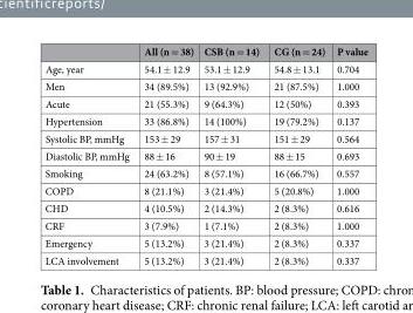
<table><thead><tr><td></td><td>All (n = 38)</td><td>CSB (n = 14)</td><td>CG (n = 24)</td><td>P value</td></tr></thead><tbody><tr><td>Age, year</td><td>54.1 ± 12.9</td><td>53.1 ± 12.9</td><td>54.8 ± 13.1</td><td>0.704</td></tr><tr><td>Men</td><td>34 (89.5%)</td><td>13 (92.9%)</td><td>21 (87.5%)</td><td>1.000</td></tr><tr><td>Acute</td><td>21 (55.3%)</td><td>9 (64.3%)</td><td>12 (50%)</td><td>0.393</td></tr><tr><td>Hypertension</td><td>33 (86.8%)</td><td>14 (100%)</td><td>19 (79.2%)</td><td>0.137</td></tr><tr><td>Systolic BP, mmHg</td><td>153 ± 29</td><td>157 ± 31</td><td>151 ± 29</td><td>0.564</td></tr><tr><td>Diastolic BP, mmHg</td><td>88 ± 16</td><td>90 ± 19</td><td>88 ± 15</td><td>0.693</td></tr><tr><td>Smoking</td><td>24 (63.2%)</td><td>8 (57.1%)</td><td>16 (66.7%)</td><td>0.557</td></tr><tr><td>COPD</td><td>8 (21.1%)</td><td>3 (21.4%)</td><td>5 (20.8%)</td><td>1.000</td></tr><tr><td>CHD</td><td>4 (10.5%)</td><td>2 (14.3%)</td><td>2 (8.3%)</td><td>0.616</td></tr><tr><td>CRF</td><td>3 (7.9%)</td><td>1 (7.1%)</td><td>2 (8.3%)</td><td>1.000</td></tr><tr><td>Emergency</td><td>5 (13.2%)</td><td>3 (21.4%)</td><td>2 (8.3%)</td><td>0.337</td></tr><tr><td>LCA involvement</td><td>5 (13.2%)</td><td>3 (21.4%)</td><td>2 (8.3%)</td><td>0.337</td></tr></tbody></table>